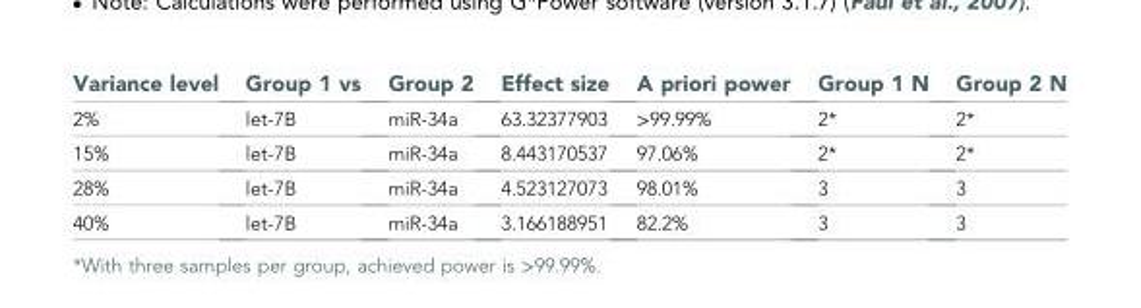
<table><thead><tr><td>Variance level</td><td>Group 1 vs</td><td>Group 2</td><td>Effect size</td><td>A priori power</td><td>Group 1 N</td><td>Group 2 N</td></tr></thead><tbody><tr><td>2%</td><td>let-7B</td><td>miR-34a</td><td>63.32377903</td><td>&gt;99.99%</td><td>2*</td><td>2*</td></tr><tr><td>15%</td><td>let-7B</td><td>miR-34a</td><td>8.443170537</td><td>97.06%</td><td>2*</td><td>2*</td></tr><tr><td>28%</td><td>let-7B</td><td>miR-34a</td><td>4.523127073</td><td>98.01%</td><td>3</td><td>3</td></tr><tr><td>40%</td><td>let-7B</td><td>miR-34a</td><td>3.166188951</td><td>82.2%</td><td>3</td><td>3</td></tr></tbody></table>